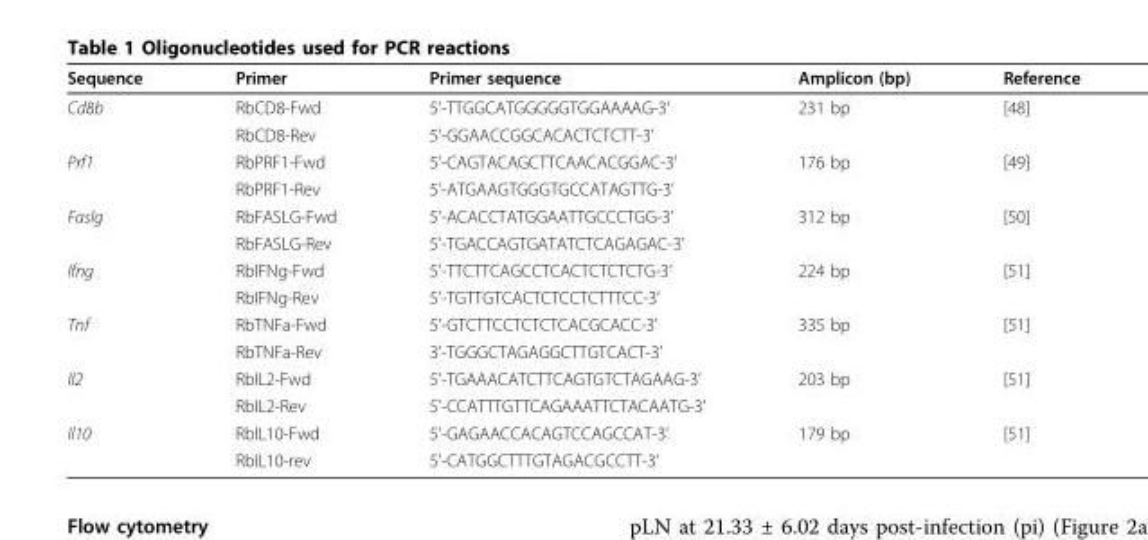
<table><thead><tr><td>Sequence</td><td>Primer</td><td>Primer sequence</td><td>Amplicon (bp)</td><td>Reference</td></tr></thead><tbody><tr><td rowspan="2">Cd8b</td><td>RbCD8-Fwd</td><td>5’-TTGGCATGGGGGTGGAAAAG-3’</td><td>231 bp</td><td>[48]</td></tr><tr><td>RbCD8-Rev</td><td>5’-GGAACCGGCACACTCTCTT-3’</td><td></td><td></td></tr><tr><td rowspan="2">Prf1</td><td>RbPRF1-Fwd</td><td>5’-CAGTACAGCTTCAACACGGAC-3’</td><td>176 bp</td><td>[49]</td></tr><tr><td>RbPRF1-Rev</td><td>5’-ATGAAGTGGGTGCCATAGTTG-3’</td><td></td><td></td></tr><tr><td rowspan="2">Faslg</td><td>RbFASLG-Fwd</td><td>5’-ACACCTATGGAATTGCCCTGG-3’</td><td>312 bp</td><td>[50]</td></tr><tr><td>RbFASLG-Rev</td><td>5’-TGACCAGTGATATCTCAGAGAC-3’</td><td></td><td></td></tr><tr><td rowspan="2">Ifng</td><td>RbIFNg-Fwd</td><td>5’-TTCTTCAGCCTCACTCTCTCTG-3’</td><td>224 bp</td><td>[51]</td></tr><tr><td>RbIFNg-Rev</td><td>5’-TGTTGTCACTCTCCTCTTTCC-3’</td><td></td><td></td></tr><tr><td rowspan="2">Tnf</td><td>RbTNFa-Fwd</td><td>5’-GTCTTCCTCTCTCACGCACC-3’</td><td>335 bp</td><td>[51]</td></tr><tr><td>RbTNFa-Rev</td><td>3’-TGGGCTAGAGGCTTGTCACT-3’</td><td></td><td></td></tr><tr><td rowspan="2">Il2</td><td>RbIL2-Fwd</td><td>5’-TGAAACATCTTCAGTGTCTAGAAG-3’</td><td>203 bp</td><td>[51]</td></tr><tr><td>RbIL2-Rev</td><td>5’-CCATTTGTTCAGAAATTCTACAATG-3’</td><td></td><td></td></tr><tr><td rowspan="2">Il10</td><td>RbIL10-Fwd</td><td>5’-GAGAACCACAGTCCAGCCAT-3’</td><td>179 bp</td><td>[51]</td></tr><tr><td>RbIL10-rev</td><td>5’-CATGGCTTTGTAGACGCCTT-3’</td><td></td><td></td></tr></tbody></table>